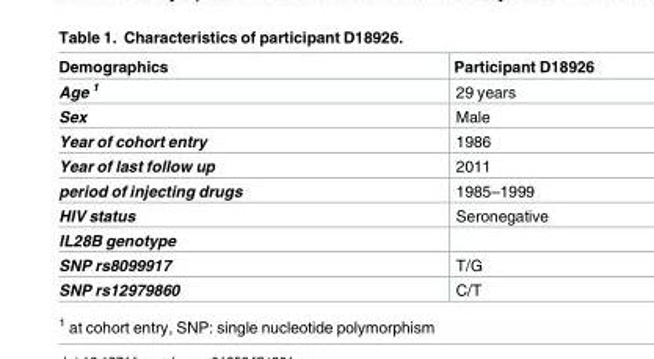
<table><thead><tr><td>Demographics</td><td>Participant D18926</td></tr></thead><tbody><tr><td>Age <sup>1</sup></td><td>29 years</td></tr><tr><td>Sex</td><td>Male</td></tr><tr><td>Year of cohort entry</td><td>1986</td></tr><tr><td>Year of last follow up</td><td>2011</td></tr><tr><td>period of injecting drugs</td><td>1985–1999</td></tr><tr><td>HIV status</td><td>Seronegative</td></tr><tr><td colspan="2">IL28B genotype</td></tr><tr><td>SNP rs8099917</td><td>T/G</td></tr><tr><td>SNP rs12979860</td><td>C/T</td></tr></tbody></table>